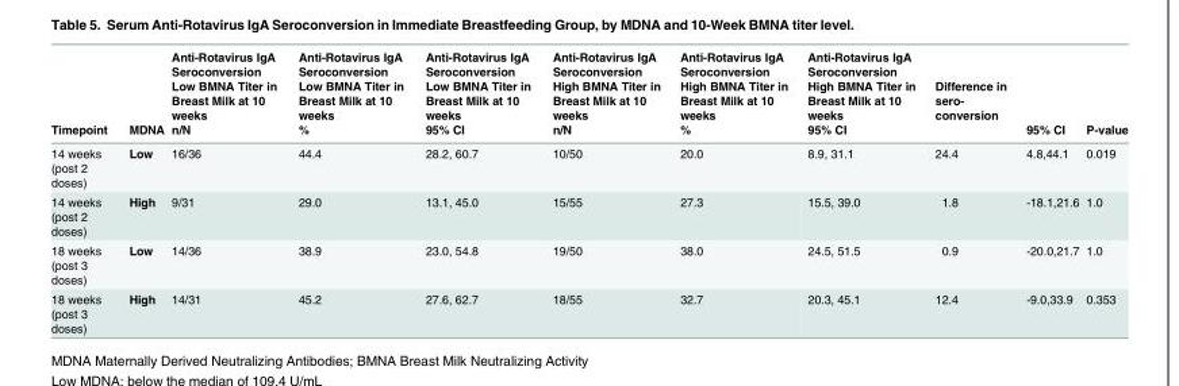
<table><thead><tr><td rowspan="3">Timepoint</td><td rowspan="3">MDNA</td><td rowspan="3">Anti-Rotavirus IgA Seroconversion Low BMNA Titer in Breast Milk at 10 weeks n/N</td><td rowspan="3">Anti-Rotavirus IgA Seroconversion Low BMNA Titer in Breast Milk at 10 weeks %</td><td rowspan="3">Anti-Rotavirus IgA Seroconversion Low BMNA Titer in Breast Milk at 10 weeks 95% CI</td><td rowspan="3">Anti-Rotavirus IgA Seroconversion High BMNA Titer in Breast Milk at 10 weeks n/N</td><td rowspan="3">Anti-Rotavirus IgA Seroconversion High BMNA Titer in Breast Milk at 10 weeks %</td><td rowspan="3">Anti-Rotavirus IgA Seroconversion High BMNA Titer in Breast Milk at 10 weeks 95% CI</td><td rowspan="3">Difference in sero- conversion</td><td rowspan="3">95% CI</td><td rowspan="3">P-value</td></tr><tr></tr><tr></tr></thead><tbody><tr><td>14 weeks (post 2 doses)</td><td>Low</td><td>16/36</td><td>44.4</td><td>28.2, 60.7</td><td>10/50</td><td>20.0</td><td>8.9, 31.1</td><td>24.4</td><td>4.8,44.1</td><td>0.019</td></tr><tr><td>14 weeks (post 2 doses)</td><td>High</td><td>9/31</td><td>29.0</td><td>13.1, 45.0</td><td>15/55</td><td>27.3</td><td>15.5, 39.0</td><td>1.8</td><td>-18.1,21.6</td><td>1.0</td></tr><tr><td>18 weeks (post 3 doses)</td><td>Low</td><td>14/36</td><td>38.9</td><td>23.0, 54.8</td><td>19/50</td><td>38.0</td><td>24.5, 51.5</td><td>0.9</td><td>-20.0,21.7</td><td>1.0</td></tr><tr><td>18 weeks (post 3 doses)</td><td>High</td><td>14/31</td><td>45.2</td><td>27.6, 62.7</td><td>18/55</td><td>32.7</td><td>20.3, 45.1</td><td>12.4</td><td>-9.0,33.9</td><td>0.353</td></tr></tbody></table>